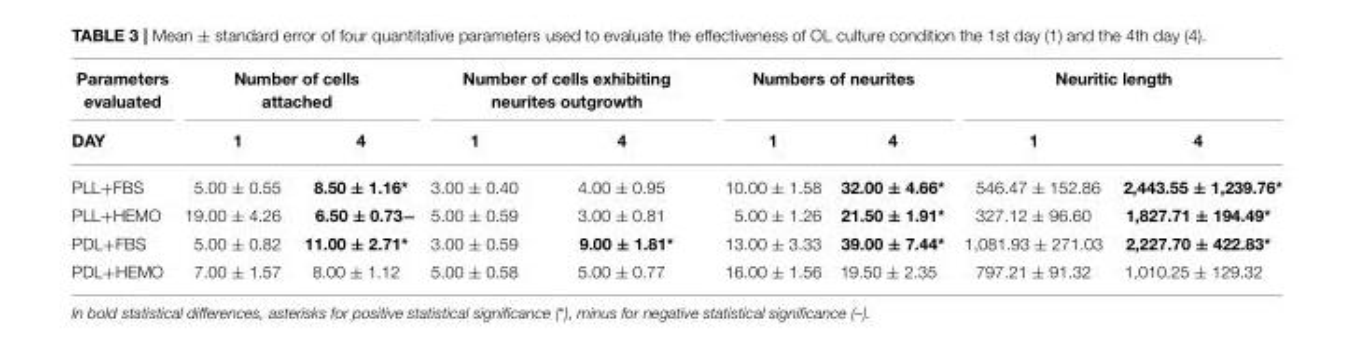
<table><thead><tr><td rowspan="2">Parameters evaluated DAY</td><td colspan="2">Number of cells attached</td><td colspan="2">Number of cells exhibiting neurites outgrowth</td><td colspan="2">Numbers of neurites</td><td colspan="2">Neuritic length</td></tr><tr><td>1</td><td>4</td><td>1</td><td>4</td><td>1</td><td>4</td><td>1</td><td>4</td></tr></thead><tbody><tr><td>PLL+FBS</td><td>5.00 ± 0.55</td><td>8.50 ± 1.16*</td><td>3.00 ± 0.40</td><td>4.00 ± 0.95</td><td>10.00 ± 1.58</td><td>32.00 ± 4.66*</td><td>546.47 ± 152.86</td><td>2,443.55 ± 1,239.76*</td></tr><tr><td>PLL+HEMO</td><td>19.00 ± 4.26</td><td>6.50 ± 0.73−</td><td>5.00 ± 0.59</td><td>3.00 ± 0.81</td><td>5.00 ± 1.26</td><td>21.50 ± 1.91*</td><td>327.12 ± 96.60</td><td>1,827.71 ± 194.49*</td></tr><tr><td>PDL+FBS</td><td>5.00 ± 0.82</td><td>11.00 ± 2.71*</td><td>3.00 ± 0.59</td><td>9.00 ± 1.81*</td><td>13.00 ± 3.33</td><td>39.00 ± 7.44*</td><td>1,081.93 ± 271.03</td><td>2,227.70 ± 422.83*</td></tr><tr><td>PDL+HEMO</td><td>7.00 ± 1.57</td><td>8.00 ± 1.12</td><td>5.00 ± 0.58</td><td>5.00 ± 0.77</td><td>16.00 ± 1.56</td><td>19.50 ± 2.35</td><td>797.21 ± 91.32</td><td>1,010.25 ± 129.32</td></tr></tbody></table>